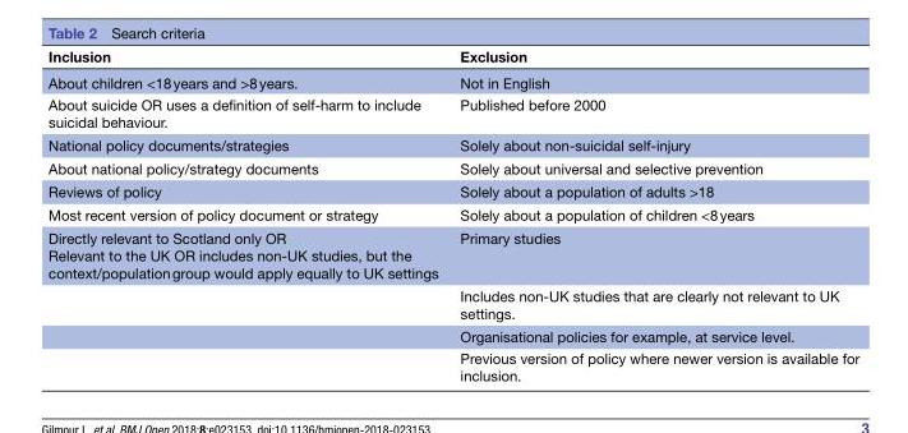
<table><thead><tr><td>Inclusion</td><td>Exclusion</td></tr></thead><tbody><tr><td>About children &lt;18 years and &gt;8 years.</td><td>Not in English</td></tr><tr><td>About suicide OR uses a definition of self-harm to include suicidal behaviour.</td><td>Published before 2000</td></tr><tr><td>National policy documents/strategies</td><td>Solely about non-suicidal self-injury</td></tr><tr><td>About national policy/strategy documents</td><td>Solely about universal and selective prevention</td></tr><tr><td>Reviews of policy</td><td>Solely about a population of adults &gt;18</td></tr><tr><td>Most recent version of policy document or strategy</td><td>Solely about a population of children &lt;8 years</td></tr><tr><td rowspan="4">Directly relevant to Scotland only OR Relevant to the UK OR includes non-UK studies, but the context/population group would apply equally to UK settings</td><td>Primary studies</td></tr><tr><td>Includes non-UK studies that are clearly not relevant to UK settings.</td></tr><tr><td>Organisational policies for example, at service level.</td></tr><tr><td>Previous version of policy where newer version is available for inclusion.</td></tr></tbody></table>